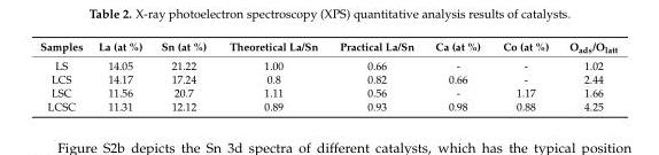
<table><thead><tr><td>Samples</td><td>La (at %)</td><td>Sn (at %)</td><td>Theoretical La/Sn</td><td>Practical La/Sn</td><td>Ca (at %)</td><td>Co (at %)</td><td>O<sub>ads</sub>/O<sub>latt</sub></td></tr></thead><tbody><tr><td>LS</td><td>14.05</td><td>21.22</td><td>1.00</td><td>0.66</td><td>-</td><td>-</td><td>1.02</td></tr><tr><td>LCS</td><td>14.17</td><td>17.24</td><td>0.8</td><td>0.82</td><td>0.66</td><td>-</td><td>2.44</td></tr><tr><td>LSC</td><td>11.56</td><td>20.7</td><td>1.11</td><td>0.56</td><td>-</td><td>1.17</td><td>1.66</td></tr><tr><td>LCSC</td><td>11.31</td><td>12.12</td><td>0.89</td><td>0.93</td><td>0.98</td><td>0.88</td><td>4.25</td></tr></tbody></table>